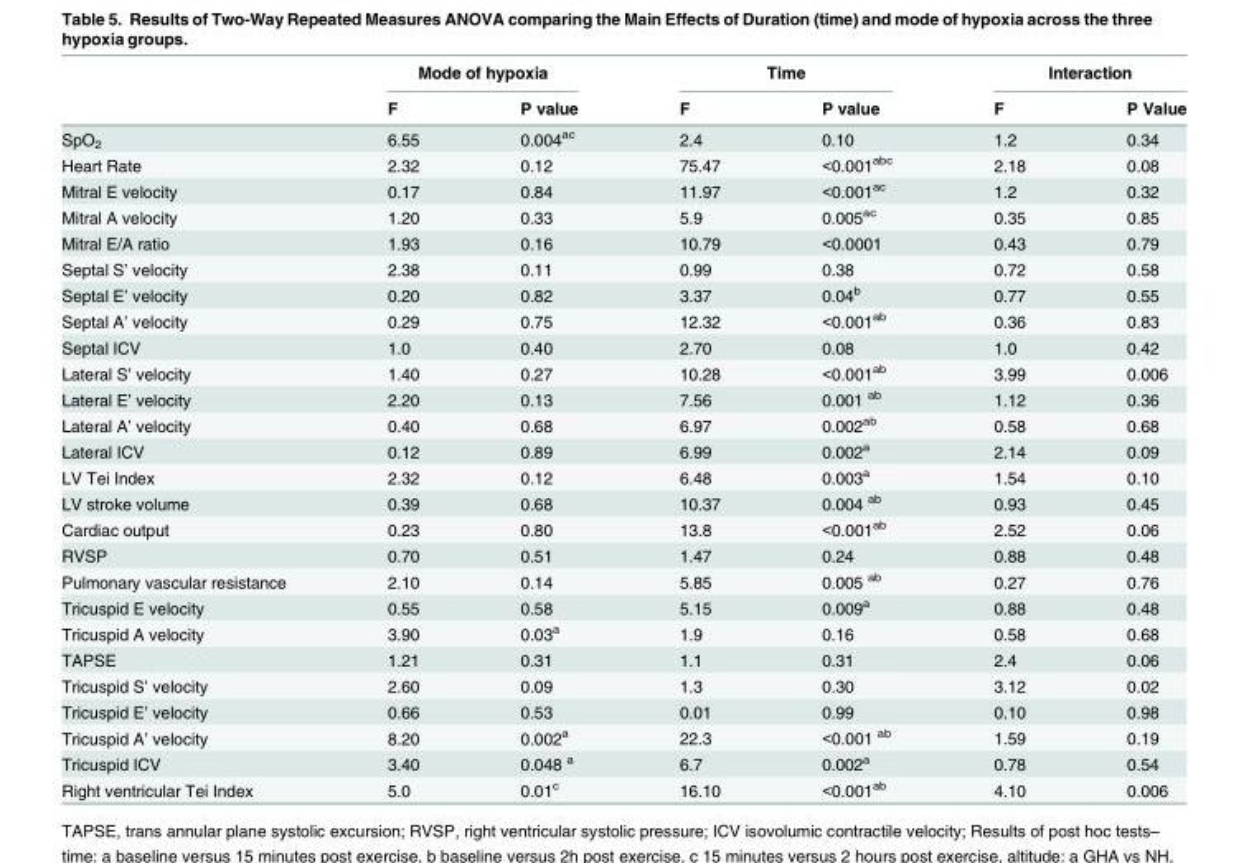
<table><thead><tr><td rowspan="2"></td><td colspan="2">Mode of hypoxia</td><td colspan="2">Time</td><td colspan="2">Interaction</td></tr><tr><td>F</td><td>P value</td><td>F</td><td>P value</td><td>F</td><td>P Value</td></tr></thead><tbody><tr><td>SpO<sub>2</sub></td><td>6.55</td><td>0.004<sup>ac</sup></td><td>2.4</td><td>0.10</td><td>1.2</td><td>0.34</td></tr><tr><td>Heart Rate</td><td>2.32</td><td>0.12</td><td>75.47</td><td>&lt;0.001<sup>abc</sup></td><td>2.18</td><td>0.08</td></tr><tr><td>Mitral E velocity</td><td>0.17</td><td>0.84</td><td>11.97</td><td>&lt;0.001<sup>ac</sup></td><td>1.2</td><td>0.32</td></tr><tr><td>Mitral A velocity</td><td>1.20</td><td>0.33</td><td>5.9</td><td>0.005<sup>ac</sup></td><td>0.35</td><td>0.85</td></tr><tr><td>Mitral E/A ratio</td><td>1.93</td><td>0.16</td><td>10.79</td><td>&lt;0.0001</td><td>0.43</td><td>0.79</td></tr><tr><td>Septal S’ velocity</td><td>2.38</td><td>0.11</td><td>0.99</td><td>0.38</td><td>0.72</td><td>0.58</td></tr><tr><td>Septal E’ velocity</td><td>0.20</td><td>0.82</td><td>3.37</td><td>0.04<sup>b</sup></td><td>0.77</td><td>0.55</td></tr><tr><td>Septal A’ velocity</td><td>0.29</td><td>0.75</td><td>12.32</td><td>&lt;0.001<sup>ab</sup></td><td>0.36</td><td>0.83</td></tr><tr><td>Septal ICV</td><td>1.0</td><td>0.40</td><td>2.70</td><td>0.08</td><td>1.0</td><td>0.42</td></tr><tr><td>Lateral S’ velocity</td><td>1.40</td><td>0.27</td><td>10.28</td><td>&lt;0.001<sup>ab</sup></td><td>3.99</td><td>0.006</td></tr><tr><td>Lateral E’ velocity</td><td>2.20</td><td>0.13</td><td>7.56</td><td>0.001 <sup>ab</sup></td><td>1.12</td><td>0.36</td></tr><tr><td>Lateral A’ velocity</td><td>0.40</td><td>0.68</td><td>6.97</td><td>0.002<sup>ab</sup></td><td>0.58</td><td>0.68</td></tr><tr><td>Lateral ICV</td><td>0.12</td><td>0.89</td><td>6.99</td><td>0.002<sup>a</sup></td><td>2.14</td><td>0.09</td></tr><tr><td>LV Tei Index</td><td>2.32</td><td>0.12</td><td>6.48</td><td>0.003<sup>a</sup></td><td>1.54</td><td>0.10</td></tr><tr><td>LV stroke volume</td><td>0.39</td><td>0.68</td><td>10.37</td><td>0.004 <sup>ab</sup></td><td>0.93</td><td>0.45</td></tr><tr><td>Cardiac output</td><td>0.23</td><td>0.80</td><td>13.8</td><td>&lt;0.001<sup>ab</sup></td><td>2.52</td><td>0.06</td></tr><tr><td>RVSP</td><td>0.70</td><td>0.51</td><td>1.47</td><td>0.24</td><td>0.88</td><td>0.48</td></tr><tr><td>Pulmonary vascular resistance</td><td>2.10</td><td>0.14</td><td>5.85</td><td>0.005 <sup>ab</sup></td><td>0.27</td><td>0.76</td></tr><tr><td>Tricuspid E velocity</td><td>0.55</td><td>0.58</td><td>5.15</td><td>0.009<sup>a</sup></td><td>0.88</td><td>0.48</td></tr><tr><td>Tricuspid A velocity</td><td>3.90</td><td>0.03<sup>a</sup></td><td>1.9</td><td>0.16</td><td>0.58</td><td>0.68</td></tr><tr><td>TAPSE</td><td>1.21</td><td>0.31</td><td>1.1</td><td>0.31</td><td>2.4</td><td>0.06</td></tr><tr><td>Tricuspid S’ velocity</td><td>2.60</td><td>0.09</td><td>1.3</td><td>0.30</td><td>3.12</td><td>0.02</td></tr><tr><td>Tricuspid E’ velocity</td><td>0.66</td><td>0.53</td><td>0.01</td><td>0.99</td><td>0.10</td><td>0.98</td></tr><tr><td>Tricuspid A’ velocity</td><td>8.20</td><td>0.002<sup>a</sup></td><td>22.3</td><td>&lt;0.001 <sup>ab</sup></td><td>1.59</td><td>0.19</td></tr><tr><td>Tricuspid ICV</td><td>3.40</td><td>0.048 <sup>a</sup></td><td>6.7</td><td>0.002<sup>a</sup></td><td>0.78</td><td>0.54</td></tr><tr><td>Right ventricular Tei Index</td><td>5.0</td><td>0.01<sup>c</sup></td><td>16.10</td><td>&lt;0.001<sup>ab</sup></td><td>4.10</td><td>0.006</td></tr></tbody></table>